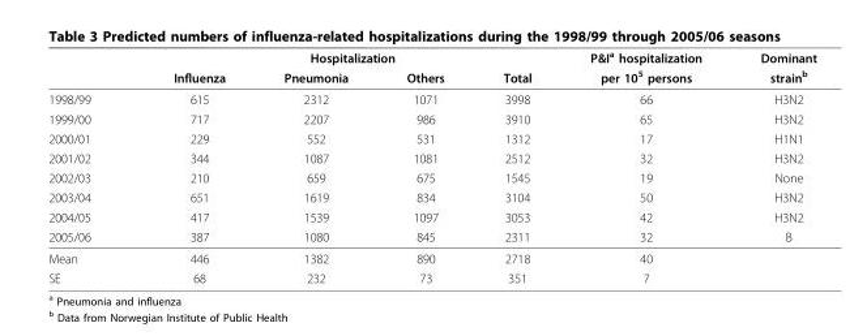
<table><thead><tr><td rowspan="2"></td><td colspan="4">Hospitalization</td><td rowspan="2">P&amp;I<sup>a</sup> hospitalization per 10<sup>5</sup> persons</td><td rowspan="2">Dominant strain<sup>b</sup></td></tr><tr><td>Influenza</td><td>Pneumonia</td><td>Others</td><td>Total</td></tr></thead><tbody><tr><td>1998/99</td><td>615</td><td>2312</td><td>1071</td><td>3998</td><td>66</td><td>H3N2</td></tr><tr><td>1999/00</td><td>717</td><td>2207</td><td>986</td><td>3910</td><td>65</td><td>H3N2</td></tr><tr><td>2000/01</td><td>229</td><td>552</td><td>531</td><td>1312</td><td>17</td><td>H1N1</td></tr><tr><td>2001/02</td><td>344</td><td>1087</td><td>1081</td><td>2512</td><td>32</td><td>H3N2</td></tr><tr><td>2002/03</td><td>210</td><td>659</td><td>675</td><td>1545</td><td>19</td><td>None</td></tr><tr><td>2003/04</td><td>651</td><td>1619</td><td>834</td><td>3104</td><td>50</td><td>H3N2</td></tr><tr><td>2004/05</td><td>417</td><td>1539</td><td>1097</td><td>3053</td><td>42</td><td>H3N2</td></tr><tr><td>2005/06</td><td>387</td><td>1080</td><td>845</td><td>2311</td><td>32</td><td>B</td></tr><tr><td>Mean</td><td>446</td><td>1382</td><td>890</td><td>2718</td><td>40</td><td></td></tr><tr><td>SE</td><td>68</td><td>232</td><td>73</td><td>351</td><td>7</td><td></td></tr></tbody></table>